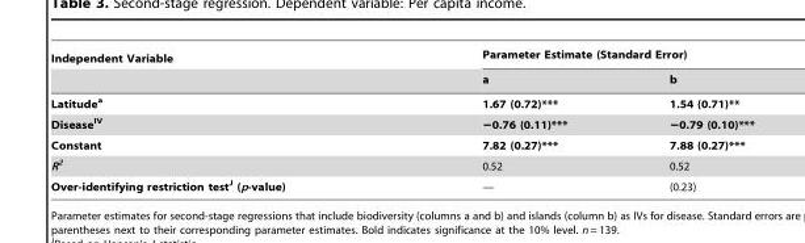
<table><thead><tr><td rowspan="2">Independent Variable</td><td colspan="2">Parameter Estimate (Standard Error)</td></tr><tr><td>a</td><td>b</td></tr></thead><tbody><tr><td>Latitudea</td><td>1.67 (0.72)***</td><td>1.54 (0.71)**</td></tr><tr><td>Disease<sup>IV</sup></td><td>−0.76 (0.11)***</td><td>−0.79 (0.10)***</td></tr><tr><td>Constant</td><td>7.82 (0.27)***</td><td>7.88 (0.27)***</td></tr><tr><td>R<sup>2</sup></td><td>0.52</td><td>0.52</td></tr><tr><td>Over-identifying restriction testJ (p-value)</td><td>—</td><td>(0.23)</td></tr></tbody></table>